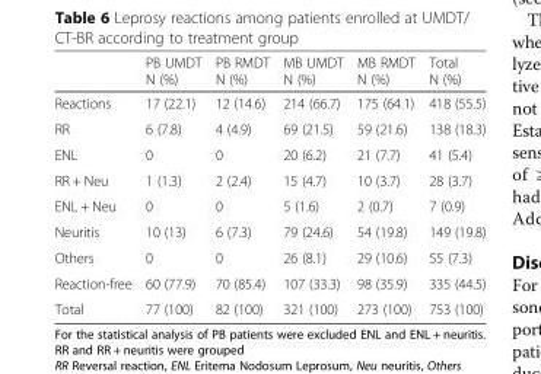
<table><thead><tr><td></td><td>PB UMDT N (%)</td><td>PB RMDT N (%)</td><td>MB UMDT N (%)</td><td>MB RMDT N (%)</td><td>Total N (%)</td></tr></thead><tbody><tr><td>Reactions</td><td>17 (22.1)</td><td>12 (14.6)</td><td>214 (66.7)</td><td>175 (64.1)</td><td>418 (55.5)</td></tr><tr><td>RR</td><td>6 (7.8)</td><td>4 (4.9)</td><td>69 (21.5)</td><td>59 (21.6)</td><td>138 (18.3)</td></tr><tr><td>ENL</td><td>0</td><td>0</td><td>20 (6.2)</td><td>21 (7.7)</td><td>41 (5.4)</td></tr><tr><td>RR + Neu</td><td>1 (1.3)</td><td>2 (2.4)</td><td>15 (4.7)</td><td>10 (3.7)</td><td>28 (3.7)</td></tr><tr><td>ENL + Neu</td><td>0</td><td>0</td><td>5 (1.6)</td><td>2 (0.7)</td><td>7 (0.9)</td></tr><tr><td>Neuritis</td><td>10 (13)</td><td>6 (7.3)</td><td>79 (24.6)</td><td>54 (19.8)</td><td>149 (19.8)</td></tr><tr><td>Others</td><td>0</td><td>0</td><td>26 (8.1)</td><td>29 (10.6)</td><td>55 (7.3)</td></tr><tr><td>Reaction-free</td><td>60 (77.9)</td><td>70 (85.4)</td><td>107 (33.3)</td><td>98 (35.9)</td><td>335 (44.5)</td></tr><tr><td>Total</td><td>77 (100)</td><td>82 (100)</td><td>321 (100)</td><td>273 (100)</td><td>753 (100)</td></tr></tbody></table>